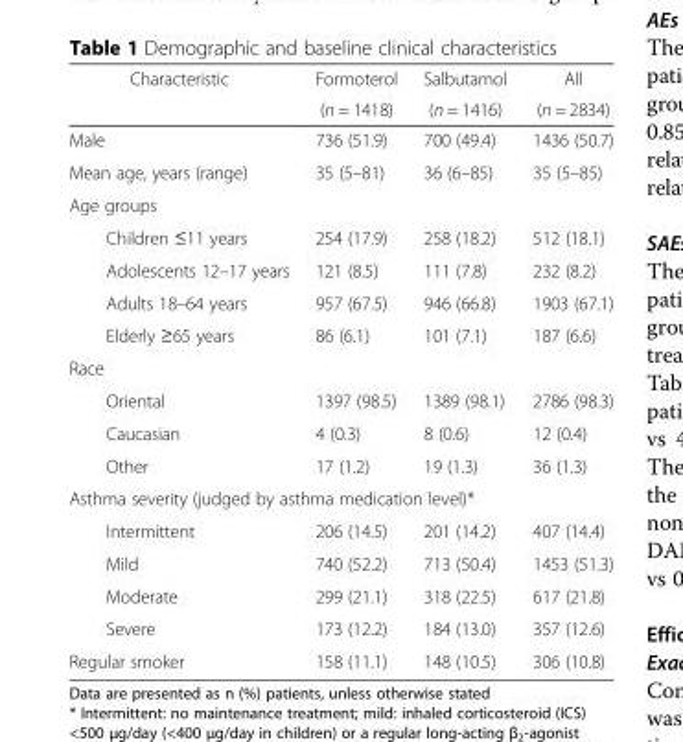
<table><thead><tr><td rowspan="2">Characteristic</td><td rowspan="2">Formoterol (n = 1418)</td><td rowspan="2">Salbutamol (n = 1416)</td><td rowspan="2">All (n = 2834)</td></tr><tr></tr></thead><tbody><tr><td>Male</td><td>736 (51.9)</td><td>700 (49.4)</td><td>1436 (50.7)</td></tr><tr><td>Mean age, years (range)</td><td>35 (5–81)</td><td>36 (6–85)</td><td>35 (5–85)</td></tr><tr><td colspan="4">Age groups</td></tr><tr><td>Children ≤11 years</td><td>254 (17.9)</td><td>258 (18.2)</td><td>512 (18.1)</td></tr><tr><td>Adolescents 12–17 years</td><td>121 (8.5)</td><td>111 (7.8)</td><td>232 (8.2)</td></tr><tr><td>Adults 18–64 years</td><td>957 (67.5)</td><td>946 (66.8)</td><td>1903 (67.1)</td></tr><tr><td>Elderly ≥65 years</td><td>86 (6.1)</td><td>101 (7.1)</td><td>187 (6.6)</td></tr><tr><td colspan="4">Race</td></tr><tr><td>Oriental</td><td>1397 (98.5)</td><td>1389 (98.1)</td><td>2786 (98.3)</td></tr><tr><td>Caucasian</td><td>4 (0.3)</td><td>8 (0.6)</td><td>12 (0.4)</td></tr><tr><td>Other</td><td>17 (1.2)</td><td>19 (1.3)</td><td>36 (1.3)</td></tr><tr><td colspan="4">Asthma severity (judged by asthma medication level)*</td></tr><tr><td>Intermittent</td><td>206 (14.5)</td><td>201 (14.2)</td><td>407 (14.4)</td></tr><tr><td>Mild</td><td>740 (52.2)</td><td>713 (50.4)</td><td>1453 (51.3)</td></tr><tr><td>Moderate</td><td>299 (21.1)</td><td>318 (22.5)</td><td>617 (21.8)</td></tr><tr><td>Severe</td><td>173 (12.2)</td><td>184 (13.0)</td><td>357 (12.6)</td></tr><tr><td>Regular smoker</td><td>158 (11.1)</td><td>148 (10.5)</td><td>306 (10.8)</td></tr></tbody></table>